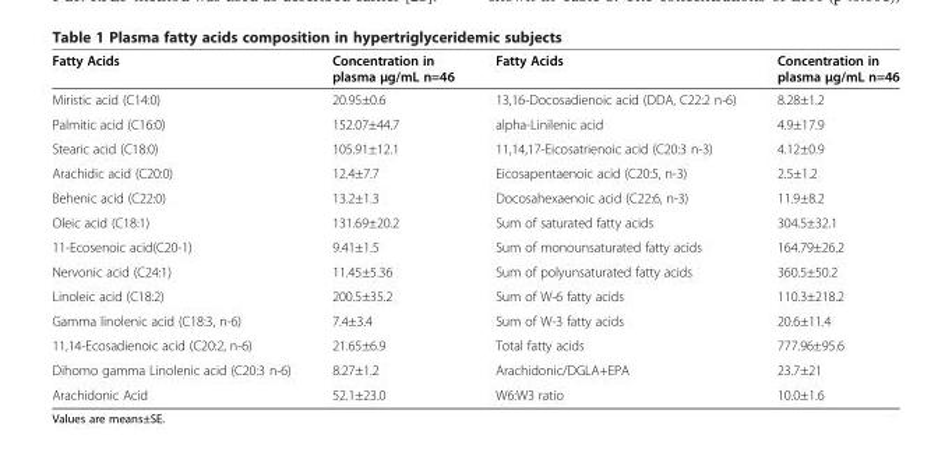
<table><thead><tr><td>Fatty Acids</td><td>Concentration in plasma μg/mL n=46</td><td>Fatty Acids</td><td>Concentration in plasma μg/mL n=46</td></tr></thead><tbody><tr><td>Miristic acid (C14:0)</td><td>20.95±0.6</td><td>13,16-Docosadienoic acid (DDA, C22:2 n-6)</td><td>8.28±1.2</td></tr><tr><td>Palmitic acid (C16:0)</td><td>152.07±44.7</td><td>alpha-Linilenic acid</td><td>4.9±17.9</td></tr><tr><td>Stearic acid (C18:0)</td><td>105.91±12.1</td><td>11,14,17-Eicosatrienoic acid (C20:3 n-3)</td><td>4.12±0.9</td></tr><tr><td>Arachidic acid (C20:0)</td><td>12.4±7.7</td><td>Eicosapentaenoic acid (C20:5, n-3)</td><td>2.5±1.2</td></tr><tr><td>Behenic acid (C22:0)</td><td>13.2±1.3</td><td>Docosahexaenoic acid (C22:6, n-3)</td><td>11.9±8.2</td></tr><tr><td>Oleic acid (C18:1)</td><td>131.69±20.2</td><td>Sum of saturated fatty acids</td><td>304.5±32.1</td></tr><tr><td>11-Ecosenoic acid(C20-1)</td><td>9.41±1.5</td><td>Sum of monounsaturated fatty acids</td><td>164.79±26.2</td></tr><tr><td>Nervonic acid (C24:1)</td><td>11.45±5.36</td><td>Sum of polyunsaturated fatty acids</td><td>360.5±50.2</td></tr><tr><td>Linoleic acid (C18:2)</td><td>200.5±35.2</td><td>Sum of W-6 fatty acids</td><td>110.3±218.2</td></tr><tr><td>Gamma linolenic acid (C18:3, n-6)</td><td>7.4±3.4</td><td>Sum of W-3 fatty acids</td><td>20.6±11.4</td></tr><tr><td>11,14-Ecosadienoic acid (C20:2, n-6)</td><td>21.65±6.9</td><td>Total fatty acids</td><td>777.96±95.6</td></tr><tr><td>Dihomo gamma Linolenic acid (C20:3 n-6)</td><td>8.27±1.2</td><td>Arachidonic/DGLA+EPA</td><td>23.7±21</td></tr><tr><td>Arachidonic Acid</td><td>52.1±23.0</td><td>W6:W3 ratio</td><td>10.0±1.6</td></tr></tbody></table>